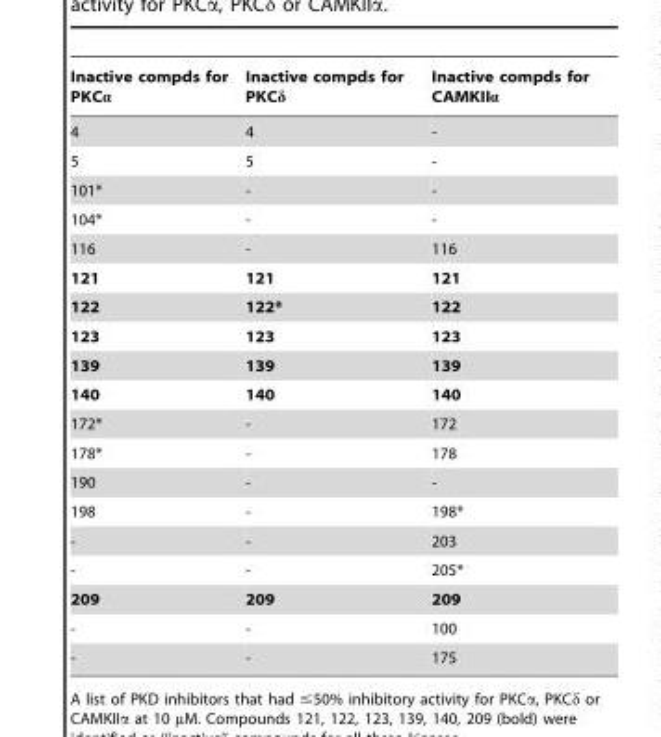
<table><thead><tr><td>Inactive compds for PKCα</td><td>Inactive compds for PKCδ</td><td>Inactive compds for CAMKIIα</td></tr></thead><tbody><tr><td>4</td><td>4</td><td>-</td></tr><tr><td>5</td><td>5</td><td>-</td></tr><tr><td>101*</td><td>-</td><td>-</td></tr><tr><td>104*</td><td>-</td><td>-</td></tr><tr><td>116</td><td>-</td><td>116</td></tr><tr><td>121</td><td>121</td><td>121</td></tr><tr><td>122</td><td>122*</td><td>122</td></tr><tr><td>123</td><td>123</td><td>123</td></tr><tr><td>139</td><td>139</td><td>139</td></tr><tr><td>140</td><td>140</td><td>140</td></tr><tr><td>172*</td><td>-</td><td>172</td></tr><tr><td>178*</td><td>-</td><td>178</td></tr><tr><td>190</td><td>-</td><td>-</td></tr><tr><td>198</td><td>-</td><td>198*</td></tr><tr><td>-</td><td>-</td><td>203</td></tr><tr><td>-</td><td>-</td><td>205*</td></tr><tr><td>209</td><td>209</td><td>209</td></tr><tr><td>-</td><td>-</td><td>100</td></tr><tr><td>-</td><td>-</td><td>175</td></tr></tbody></table>